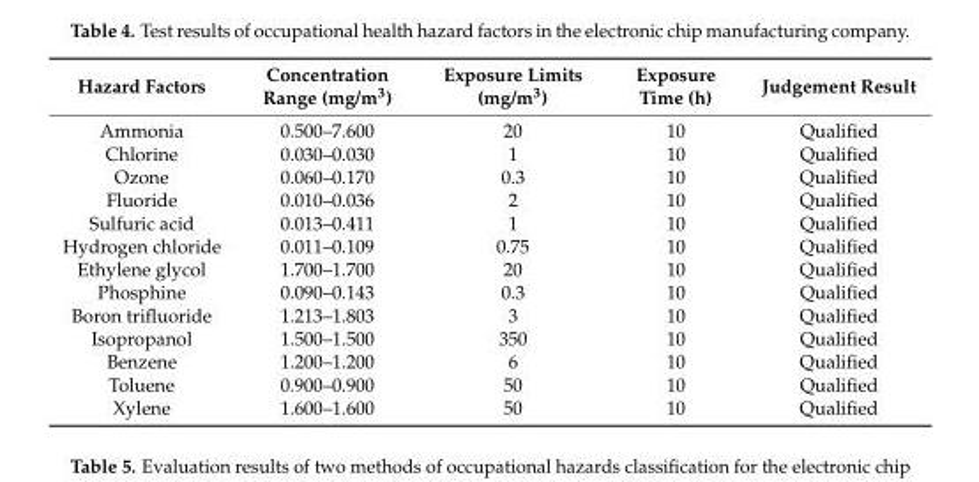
<table><thead><tr><td>Hazard Factors</td><td>Concentration Range (mg/m<sup>3</sup>)</td><td>Exposure Limits (mg/m<sup>3</sup>)</td><td>Exposure Time (h)</td><td>Judgement Result</td></tr></thead><tbody><tr><td>Ammonia</td><td>0.500–7.600</td><td>20</td><td>10</td><td>Qualified</td></tr><tr><td>Chlorine</td><td>0.030–0.030</td><td>1</td><td>10</td><td>Qualified</td></tr><tr><td>Ozone</td><td>0.060–0.170</td><td>0.3</td><td>10</td><td>Qualified</td></tr><tr><td>Fluoride</td><td>0.010–0.036</td><td>2</td><td>10</td><td>Qualified</td></tr><tr><td>Sulfuric acid</td><td>0.013–0.411</td><td>1</td><td>10</td><td>Qualified</td></tr><tr><td>Hydrogen chloride</td><td>0.011–0.109</td><td>0.75</td><td>10</td><td>Qualified</td></tr><tr><td>Ethylene glycol</td><td>1.700–1.700</td><td>20</td><td>10</td><td>Qualified</td></tr><tr><td>Phosphine</td><td>0.090–0.143</td><td>0.3</td><td>10</td><td>Qualified</td></tr><tr><td>Boron trifluoride</td><td>1.213–1.803</td><td>3</td><td>10</td><td>Qualified</td></tr><tr><td>Isopropanol</td><td>1.500–1.500</td><td>350</td><td>10</td><td>Qualified</td></tr><tr><td>Benzene</td><td>1.200–1.200</td><td>6</td><td>10</td><td>Qualified</td></tr><tr><td>Toluene</td><td>0.900–0.900</td><td>50</td><td>10</td><td>Qualified</td></tr><tr><td>Xylene</td><td>1.600–1.600</td><td>50</td><td>10</td><td>Qualified</td></tr></tbody></table>